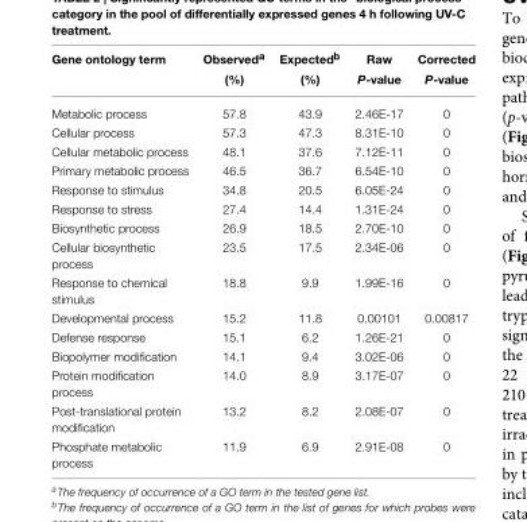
<table><thead><tr><td>Gene ontology term</td><td>Observed<sup>a</sup> (%)</td><td>Expected<sup>b</sup> (%)</td><td>Raw P-value</td><td>Corrected P-value</td></tr></thead><tbody><tr><td>Metabolic process</td><td>57.8</td><td>43.9</td><td>2.46E-17</td><td>0</td></tr><tr><td>Cellular process</td><td>57.3</td><td>47.3</td><td>8.31E-10</td><td>0</td></tr><tr><td>Cellular metabolic process</td><td>48.1</td><td>37.6</td><td>7.12E-11</td><td>0</td></tr><tr><td>Primary metabolic process</td><td>46.5</td><td>36.7</td><td>6.54E-10</td><td>0</td></tr><tr><td>Response to stimulus</td><td>34.8</td><td>20.5</td><td>6.05E-24</td><td>0</td></tr><tr><td>Response to stress</td><td>27.4</td><td>14.4</td><td>1.31E-24</td><td>0</td></tr><tr><td>Biosynthetic process</td><td>26.9</td><td>18.5</td><td>2.70E-10</td><td>0</td></tr><tr><td>Cellular biosynthetic process</td><td>23.5</td><td>17.5</td><td>2.34E-06</td><td>0</td></tr><tr><td>Response to chemical stimulus</td><td>18.8</td><td>9.9</td><td>1.99E-16</td><td>0</td></tr><tr><td>Developmental process</td><td>15.2</td><td>11.8</td><td>0.00101</td><td>0.00817</td></tr><tr><td>Defense response</td><td>15.1</td><td>6.2</td><td>1.26E-21</td><td>0</td></tr><tr><td>Biopolymer modification</td><td>14.1</td><td>9.4</td><td>3.02E-06</td><td>0</td></tr><tr><td>Protein modification process</td><td>14.0</td><td>8.9</td><td>3.17E-07</td><td>0</td></tr><tr><td>Post-translational protein modification</td><td>13.2</td><td>8.2</td><td>2.08E-07</td><td>0</td></tr><tr><td>Phosphate metabolic process</td><td>11.9</td><td>6.9</td><td>2.91E-08</td><td>0</td></tr></tbody></table>